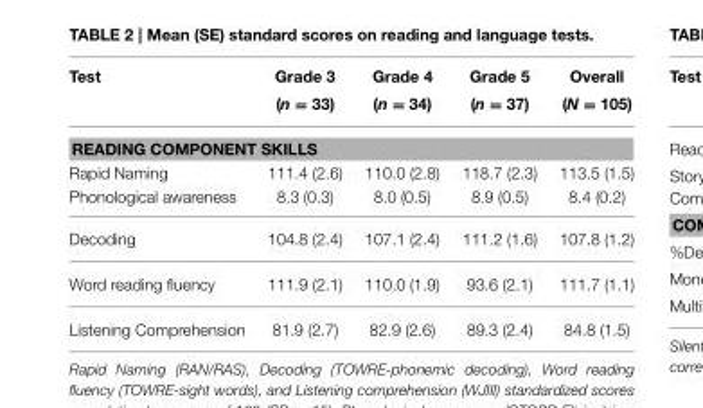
<table><thead><tr><td>Test</td><td>Grade 3 (n = 33)</td><td>Grade 4 (n = 34)</td><td>Grade 5 (n = 37)</td><td>Overall (N = 105)</td></tr></thead><tbody><tr><td colspan="5">READING COMPONENT SKILLS</td></tr><tr><td>Rapid Naming</td><td>111.4 (2.6)</td><td>110.0 (2.8)</td><td>118.7 (2.3)</td><td>113.5 (1.5)</td></tr><tr><td>Phonological awareness</td><td>8.3 (0.3)</td><td>8.0 (0.5)</td><td>8.9 (0.5)</td><td>8.4 (0.2)</td></tr><tr><td>Decoding</td><td>104.8 (2.4)</td><td>107.1 (2.4)</td><td>111.2 (1.6)</td><td>107.8 (1.2)</td></tr><tr><td>Word reading fluency</td><td>111.9 (2.1)</td><td>110.0 (1.9)</td><td>93.6 (2.1)</td><td>111.7 (1.1)</td></tr><tr><td>Listening Comprehension</td><td>81.9 (2.7)</td><td>82.9 (2.6)</td><td>89.3 (2.4)</td><td>84.8 (1.5)</td></tr></tbody></table>